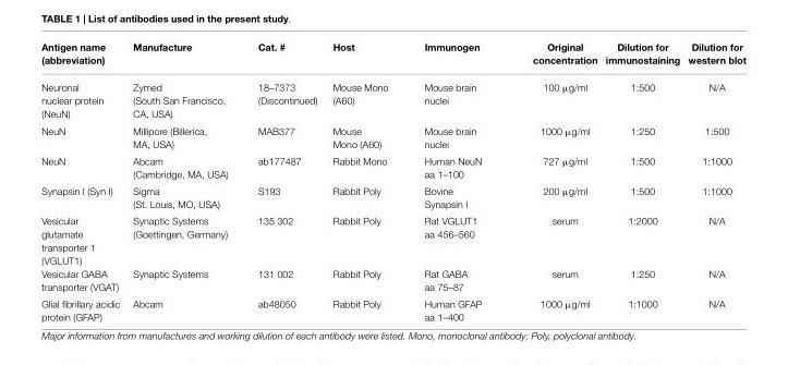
<table><thead><tr><td>Antigen name (abbreviation)</td><td>Manufacture</td><td>Cat. #</td><td>Host</td><td>Immunogen</td><td>Original concentration</td><td>Dilution for immunostaining</td><td>Dilution for western blot</td></tr></thead><tbody><tr><td>Neuronal nuclear protein (NeuN)</td><td>Zymed (South San Francisco, CA, USA)</td><td>18–7373 (Discontinued)</td><td>Mouse Mono (A60)</td><td>Mouse brain nuclei</td><td>100 µg/ml</td><td>1:500</td><td>N/A</td></tr><tr><td>NeuN</td><td>Millipore (Billerica, MA, USA)</td><td>MAB377</td><td>Mouse Mono (A60)</td><td>Mouse brain nuclei</td><td>1000 µg/ml</td><td>1:250</td><td>1:500</td></tr><tr><td>NeuN</td><td>Abcam (Cambridge, MA, USA)</td><td>ab177487</td><td>Rabbit Mono</td><td>Human NeuN aa 1–100</td><td>727 µg/ml</td><td>1:500</td><td>1:1000</td></tr><tr><td>Synapsin I (Syn I)</td><td>Sigma (St. Louis, MO, USA)</td><td>S193</td><td>Rabbit Poly</td><td>Bovine Synapsin I</td><td>200 µg/ml</td><td>1:500</td><td>1:1000</td></tr><tr><td>Vesicular glutamate transporter 1 (VGLUT1)</td><td>Synaptic Systems (Goettingen, Germany)</td><td>135 302</td><td>Rabbit Poly</td><td>Rat VGLUT1 aa 456–560</td><td>serum</td><td>1:2000</td><td>N/A</td></tr><tr><td>Vesicular GABA transporter (VGAT)</td><td>Synaptic Systems</td><td>131 002</td><td>Rabbit Poly</td><td>Rat GABA aa 75–87</td><td>serum</td><td>1:250</td><td>N/A</td></tr><tr><td>Glial fibrillary acidic protein (GFAP)</td><td>Abcam</td><td>ab48050</td><td>Rabbit Poly</td><td>Human GFAP aa 1–400</td><td>1000 µg/ml</td><td>1:1000</td><td>N/A</td></tr></tbody></table>